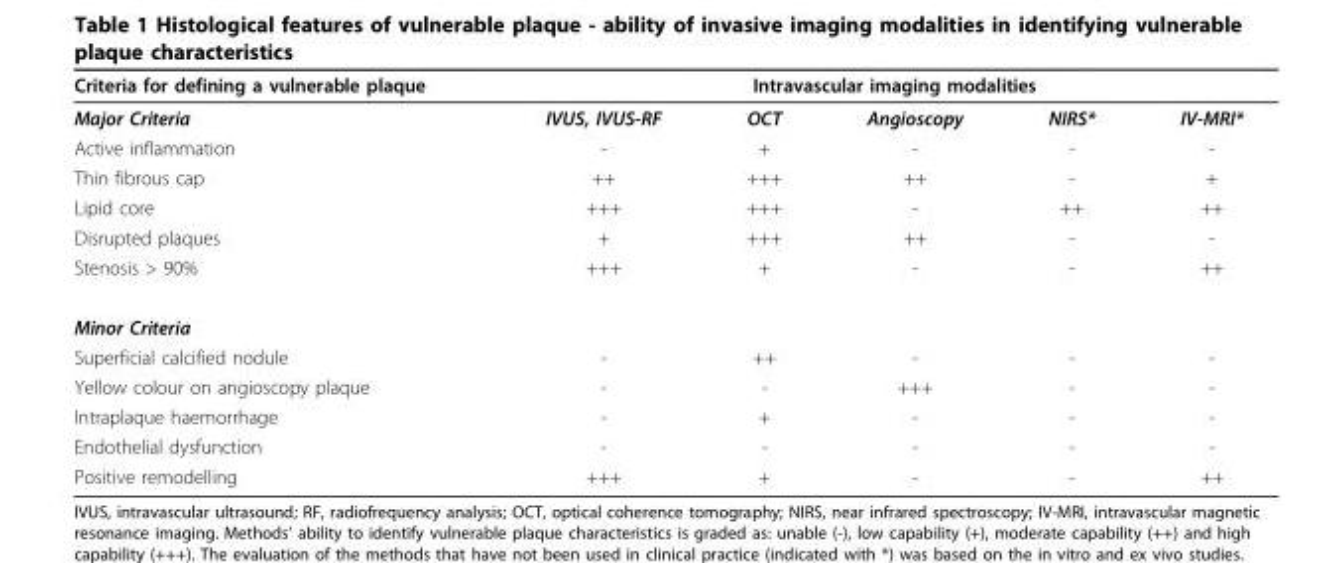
<table><thead><tr><td rowspan="2">Criteria for defining a vulnerable plaque Major Criteria</td><td colspan="5">Intravascular imaging modalities</td></tr><tr><td>IVUS, IVUS-RF</td><td>OCT</td><td>Angioscopy</td><td>NIRS*</td><td>IV-MRI*</td></tr></thead><tbody><tr><td>Active inflammation</td><td>-</td><td>+</td><td>-</td><td>-</td><td>-</td></tr><tr><td>Thin fibrous cap</td><td>++</td><td>+++</td><td>++</td><td>-</td><td>+</td></tr><tr><td>Lipid core</td><td>+++</td><td>+++</td><td>-</td><td>++</td><td>++</td></tr><tr><td>Disrupted plaques</td><td>+</td><td>+++</td><td>++</td><td>-</td><td>-</td></tr><tr><td>Stenosis &gt; 90%</td><td>+++</td><td>+</td><td>-</td><td>-</td><td>++</td></tr><tr><td colspan="6">Minor Criteria</td></tr><tr><td>Superficial calcified nodule</td><td>-</td><td>++</td><td>-</td><td>-</td><td>-</td></tr><tr><td>Yellow colour on angioscopy plaque</td><td>-</td><td>-</td><td>+++</td><td>-</td><td>-</td></tr><tr><td>Intraplaque haemorrhage</td><td>-</td><td>+</td><td>-</td><td>-</td><td>-</td></tr><tr><td>Endothelial dysfunction</td><td>-</td><td>-</td><td>-</td><td>-</td><td>-</td></tr><tr><td>Positive remodelling</td><td>+++</td><td>+</td><td>-</td><td>-</td><td>++</td></tr></tbody></table>